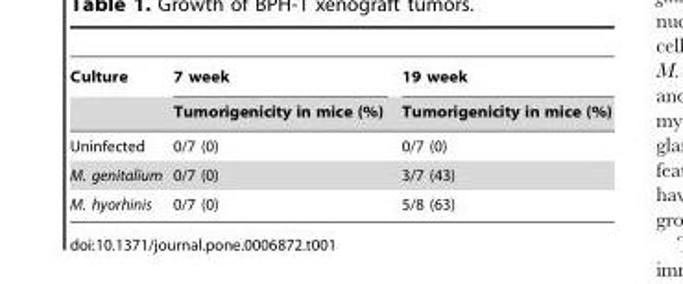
<table><thead><tr><td rowspan="2">Culture</td><td rowspan="2">7 week Tumorigenicity in mice (%)</td><td rowspan="2">19 week Tumorigenicity in mice (%)</td></tr><tr></tr></thead><tbody><tr><td>Uninfected</td><td>0/7 (0)</td><td>0/7 (0)</td></tr><tr><td>M. genitalium</td><td>0/7 (0)</td><td>3/7 (43)</td></tr><tr><td>M. hyorhinis</td><td>0/7 (0)</td><td>5/8 (63)</td></tr></tbody></table>